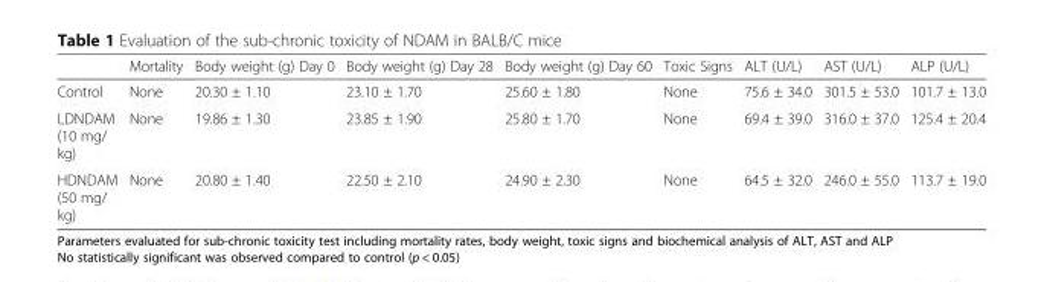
<table><thead><tr><td></td><td>Mortality</td><td>Body weight (g) Day 0</td><td>Body weight (g) Day 28</td><td>Body weight (g) Day 60</td><td>Toxic Signs</td><td>ALT (U/L)</td><td>AST (U/L)</td><td>ALP (U/L)</td></tr></thead><tbody><tr><td>Control</td><td>None</td><td>20.30 ± 1.10</td><td>23.10 ± 1.70</td><td>25.60 ± 1.80</td><td>None</td><td>75.6 ± 34.0</td><td>301.5 ± 53.0</td><td>101.7 ± 13.0</td></tr><tr><td>LDNDAM (10 mg/ kg)</td><td>None</td><td>19.86 ± 1.30</td><td>23.85 ± 1.90</td><td>25.80 ± 1.70</td><td>None</td><td>69.4 ± 39.0</td><td>316.0 ± 37.0</td><td>125.4 ± 20.4</td></tr><tr><td>HDNDAM (50 mg/ kg)</td><td>None</td><td>20.80 ± 1.40</td><td>22.50 ± 2.10</td><td>24.90 ± 2.30</td><td>None</td><td>64.5 ± 32.0</td><td>246.0 ± 55.0</td><td>113.7 ± 19.0</td></tr></tbody></table>